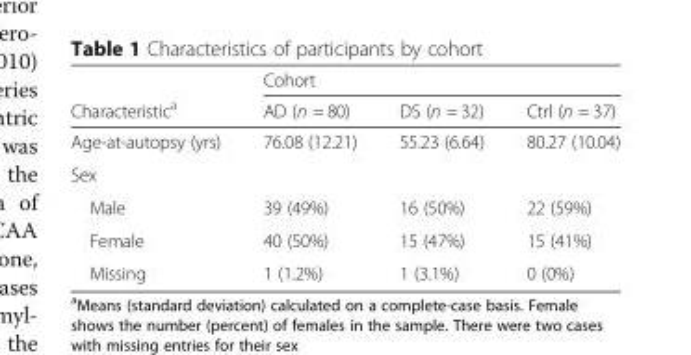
<table><thead><tr><td rowspan="2">Characteristic<sup>a</sup></td><td colspan="3">Cohort</td></tr><tr><td>AD (n = 80)</td><td>DS (n = 32)</td><td>Ctrl (n = 37)</td></tr></thead><tbody><tr><td>Age-at-autopsy (yrs)</td><td>76.08 (12.21)</td><td>55.23 (6.64)</td><td>80.27 (10.04)</td></tr><tr><td colspan="4">Sex</td></tr><tr><td>Male</td><td>39 (49%)</td><td>16 (50%)</td><td>22 (59%)</td></tr><tr><td>Female</td><td>40 (50%)</td><td>15 (47%)</td><td>15 (41%)</td></tr><tr><td>Missing</td><td>1 (1.2%)</td><td>1 (3.1%)</td><td>0 (0%)</td></tr></tbody></table>